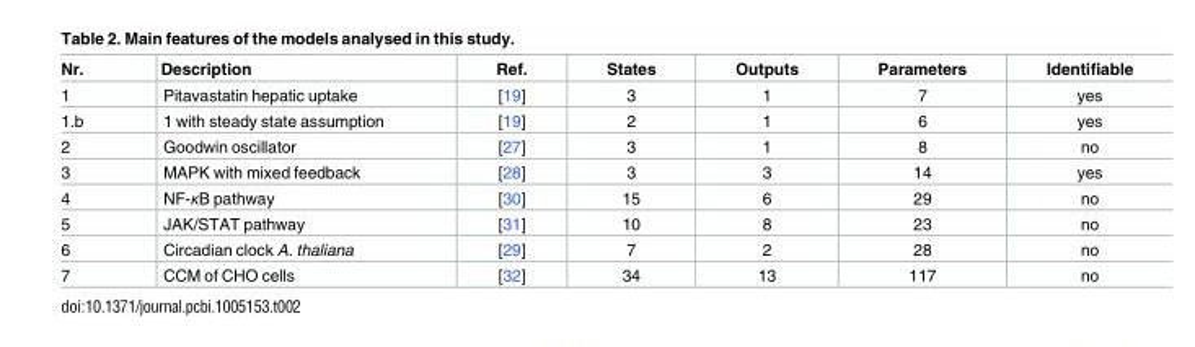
<table><thead><tr><td>Nr.</td><td>Description</td><td>Ref.</td><td>States</td><td>Outputs</td><td>Parameters</td><td>Identifiable</td></tr></thead><tbody><tr><td>1</td><td>Pitavastatin hepatic uptake</td><td>[19]</td><td>3</td><td>1</td><td>7</td><td>yes</td></tr><tr><td>1.b</td><td>1 with steady state assumption</td><td>[19]</td><td>2</td><td>1</td><td>6</td><td>yes</td></tr><tr><td>2</td><td>Goodwin oscillator</td><td>[27]</td><td>3</td><td>1</td><td>8</td><td>no</td></tr><tr><td>3</td><td>MAPK with mixed feedback</td><td>[28]</td><td>3</td><td>3</td><td>14</td><td>yes</td></tr><tr><td>4</td><td>NF-κB pathway</td><td>[30]</td><td>15</td><td>6</td><td>29</td><td>no</td></tr><tr><td>5</td><td>JAK/STAT pathway</td><td>[31]</td><td>10</td><td>8</td><td>23</td><td>no</td></tr><tr><td>6</td><td>Circadian clock A. thaliana</td><td>[29]</td><td>7</td><td>2</td><td>28</td><td>no</td></tr><tr><td>7</td><td>CCM of CHO cells</td><td>[32]</td><td>34</td><td>13</td><td>117</td><td>no</td></tr></tbody></table>